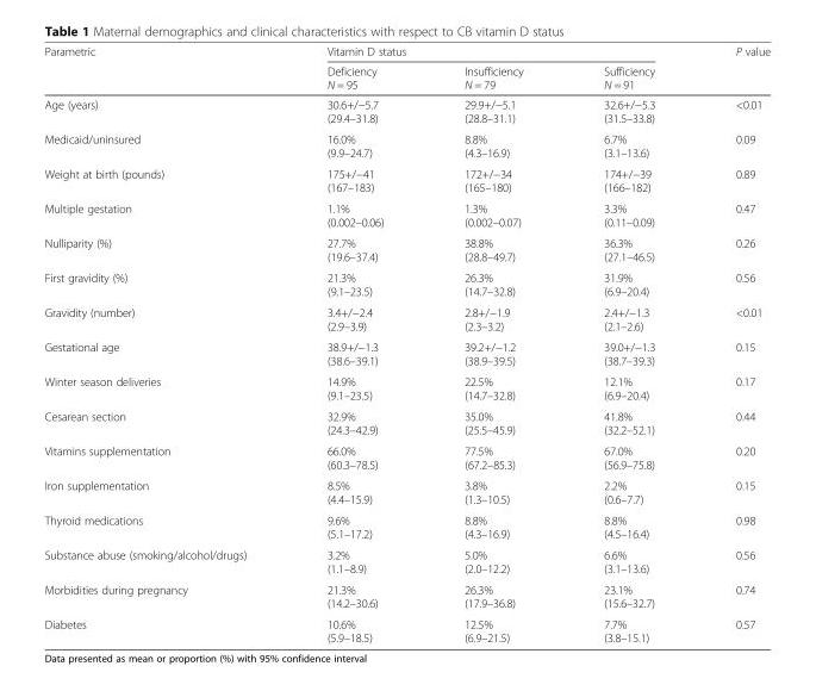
<table><thead><tr><td rowspan="2">Parametric</td><td colspan="3">Vitamin D status</td><td rowspan="2">P value</td></tr><tr><td>Deficiency N = 95</td><td>Insufficiency N = 79</td><td>Sufficiency N = 91</td></tr></thead><tbody><tr><td>Age (years)</td><td>30.6+/−5.7 (29.4–31.8)</td><td>29.9+/−5.1 (28.8–31.1)</td><td>32.6+/−5.3 (31.5–33.8)</td><td>&lt;0.01</td></tr><tr><td>Medicaid/uninsured</td><td>16.0% (9.9–24.7)</td><td>8.8% (4.3–16.9)</td><td>6.7% (3.1–13.6)</td><td>0.09</td></tr><tr><td>Weight at birth (pounds)</td><td>175+/−41 (167–183)</td><td>172+/−34 (165–180)</td><td>174+/−39 (166–182)</td><td>0.89</td></tr><tr><td>Multiple gestation</td><td>1.1% (0.002–0.06)</td><td>1.3% (0.002–0.07)</td><td>3.3% (0.11–0.09)</td><td>0.47</td></tr><tr><td>Nulliparity (%)</td><td>27.7% (19.6–37.4)</td><td>38.8% (28.8–49.7)</td><td>36.3% (27.1–46.5)</td><td>0.26</td></tr><tr><td>First gravidity (%)</td><td>21.3% (9.1–23.5)</td><td>26.3% (14.7–32.8)</td><td>31.9% (6.9–20.4)</td><td>0.56</td></tr><tr><td>Gravidity (number)</td><td>3.4+/−2.4 (2.9–3.9)</td><td>2.8+/−1.9 (2.3–3.2)</td><td>2.4+/−1.3 (2.1–2.6)</td><td>&lt;0.01</td></tr><tr><td>Gestational age</td><td>38.9+/−1.3 (38.6–39.1)</td><td>39.2+/−1.2 (38.9–39.5)</td><td>39.0+/−1.3 (38.7–39.3)</td><td>0.15</td></tr><tr><td>Winter season deliveries</td><td>14.9% (9.1–23.5)</td><td>22.5% (14.7–32.8)</td><td>12.1% (6.9–20.4)</td><td>0.17</td></tr><tr><td>Cesarean section</td><td>32.9% (24.3–42.9)</td><td>35.0% (25.5–45.9)</td><td>41.8% (32.2–52.1)</td><td>0.44</td></tr><tr><td>Vitamins supplementation</td><td>66.0% (60.3–78.5)</td><td>77.5% (67.2–85.3)</td><td>67.0% (56.9–75.8)</td><td>0.20</td></tr><tr><td>Iron supplementation</td><td>8.5% (4.4–15.9)</td><td>3.8% (1.3–10.5)</td><td>2.2% (0.6–7.7)</td><td>0.15</td></tr><tr><td>Thyroid medications</td><td>9.6% (5.1–17.2)</td><td>8.8% (4.3–16.9)</td><td>8.8% (4.5–16.4)</td><td>0.98</td></tr><tr><td>Substance abuse (smoking/alcohol/drugs)</td><td>3.2% (1.1–8.9)</td><td>5.0% (2.0–12.2)</td><td>6.6% (3.1–13.6)</td><td>0.56</td></tr><tr><td>Morbidities during pregnancy</td><td>21.3% (14.2–30.6)</td><td>26.3% (17.9–36.8)</td><td>23.1% (15.6–32.7)</td><td>0.74</td></tr><tr><td>Diabetes</td><td>10.6% (5.9–18.5)</td><td>12.5% (6.9–21.5)</td><td>7.7% (3.8–15.1)</td><td>0.57</td></tr></tbody></table>